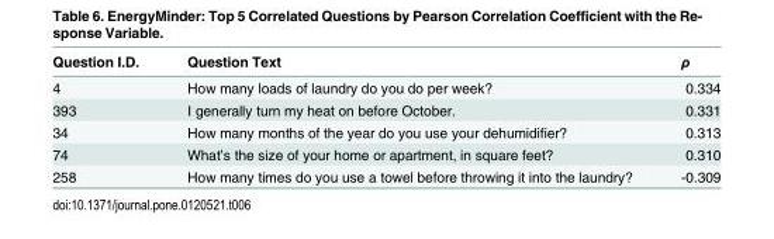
<table><thead><tr><td>Question I.D.</td><td>Question Text</td><td>ρ</td></tr></thead><tbody><tr><td>4</td><td>How many loads of laundry do you do per week?</td><td>0.334</td></tr><tr><td>393</td><td>I generally turn my heat on before October.</td><td>0.331</td></tr><tr><td>34</td><td>How many months of the year do you use your dehumidifier?</td><td>0.313</td></tr><tr><td>74</td><td>What’s the size of your home or apartment, in square feet?</td><td>0.310</td></tr><tr><td>258</td><td>How many times do you use a towel before throwing it into the laundry?</td><td>-0.309</td></tr></tbody></table>